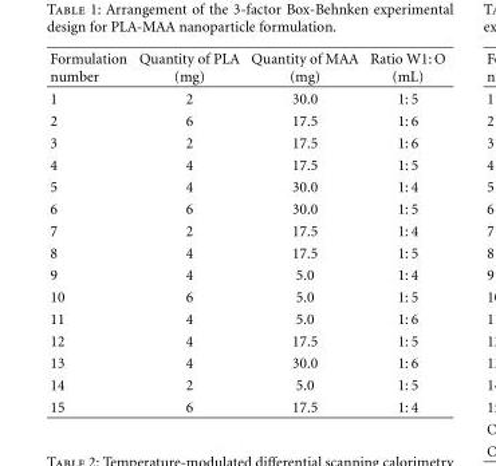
<table><thead><tr><td>Formulation number</td><td>Quantity of PLA (mg)</td><td>Quantity of MAA (mg)</td><td>Ratio W1: O (mL)</td></tr></thead><tbody><tr><td>1</td><td>2</td><td>30.0</td><td>1: 5</td></tr><tr><td>2</td><td>6</td><td>17.5</td><td>1: 6</td></tr><tr><td>3</td><td>2</td><td>17.5</td><td>1: 6</td></tr><tr><td>4</td><td>4</td><td>17.5</td><td>1: 5</td></tr><tr><td>5</td><td>4</td><td>30.0</td><td>1: 4</td></tr><tr><td>6</td><td>6</td><td>30.0</td><td>1: 5</td></tr><tr><td>7</td><td>2</td><td>17.5</td><td>1: 4</td></tr><tr><td>8</td><td>4</td><td>17.5</td><td>1: 5</td></tr><tr><td>9</td><td>4</td><td>5.0</td><td>1: 4</td></tr><tr><td>10</td><td>6</td><td>5.0</td><td>1: 5</td></tr><tr><td>11</td><td>4</td><td>5.0</td><td>1: 6</td></tr><tr><td>12</td><td>4</td><td>17.5</td><td>1: 5</td></tr><tr><td>13</td><td>4</td><td>30.0</td><td>1: 6</td></tr><tr><td>14</td><td>2</td><td>5.0</td><td>1: 5</td></tr><tr><td>15</td><td>6</td><td>17.5</td><td>1: 4</td></tr></tbody></table>